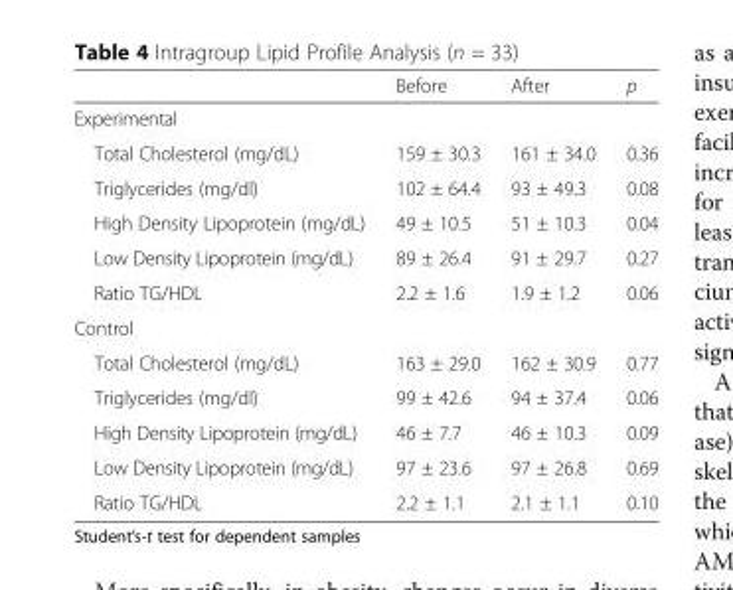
<table><thead><tr><td></td><td>Before</td><td>After</td><td>p</td></tr></thead><tbody><tr><td colspan="4">Experimental</td></tr><tr><td>Total Cholesterol (mg/dL)</td><td>159 ± 30.3</td><td>161 ± 34.0</td><td>0.36</td></tr><tr><td>Triglycerides (mg/dl)</td><td>102 ± 64.4</td><td>93 ± 49.3</td><td>0.08</td></tr><tr><td>High Density Lipoprotein (mg/dL)</td><td>49 ± 10.5</td><td>51 ± 10.3</td><td>0.04</td></tr><tr><td>Low Density Lipoprotein (mg/dL)</td><td>89 ± 26.4</td><td>91 ± 29.7</td><td>0.27</td></tr><tr><td>Ratio TG/HDL</td><td>2.2 ± 1.6</td><td>1.9 ± 1.2</td><td>0.06</td></tr><tr><td colspan="4">Control</td></tr><tr><td>Total Cholesterol (mg/dL)</td><td>163 ± 29.0</td><td>162 ± 30.9</td><td>0.77</td></tr><tr><td>Triglycerides (mg/dl)</td><td>99 ± 42.6</td><td>94 ± 37.4</td><td>0.06</td></tr><tr><td>High Density Lipoprotein (mg/dL)</td><td>46 ± 7.7</td><td>46 ± 10.3</td><td>0.09</td></tr><tr><td>Low Density Lipoprotein (mg/dL)</td><td>97 ± 23.6</td><td>97 ± 26.8</td><td>0.69</td></tr><tr><td>Ratio TG/HDL</td><td>2.2 ± 1.1</td><td>2.1 ± 1.1</td><td>0.10</td></tr></tbody></table>